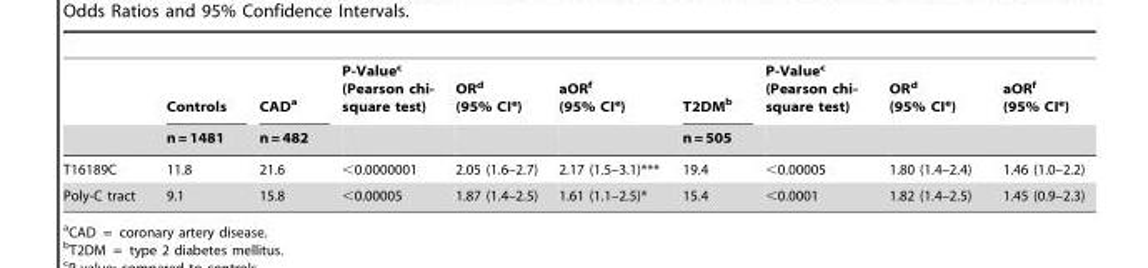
<table><thead><tr><td rowspan="2"></td><td rowspan="2">Controls n = 1481</td><td rowspan="2">CAD<sup>a</sup> n = 482</td><td rowspan="2">P-Value<sup>c</sup> (Pearson chi- square test)</td><td rowspan="2">OR<sup>d</sup> (95% CI<sup>e</sup>)</td><td rowspan="2">aOR<sup>f</sup> (95% CI<sup>e</sup>)</td><td rowspan="2">T2DM<sup>b</sup> n = 505</td><td rowspan="2">P-Value<sup>c</sup> (Pearson chi- square test)</td><td rowspan="2">OR<sup>d</sup> (95% CI<sup>e</sup>)</td><td rowspan="2">aOR<sup>f</sup> (95% CI<sup>e</sup>)</td></tr><tr></tr></thead><tbody><tr><td>T16189C</td><td>11.8</td><td>21.6</td><td>&lt;0.0000001</td><td>2.05 (1.6–2.7)</td><td>2.17 (1.5–3.1)***</td><td>19.4</td><td>&lt;0.00005</td><td>1.80 (1.4–2.4)</td><td>1.46 (1.0–2.2)</td></tr><tr><td>Poly-C tract</td><td>9.1</td><td>15.8</td><td>&lt;0.00005</td><td>1.87 (1.4–2.5)</td><td>1.61 (1.1–2.5)*</td><td>15.4</td><td>&lt;0.0001</td><td>1.82 (1.4–2.5)</td><td>1.45 (0.9–2.3)</td></tr></tbody></table>